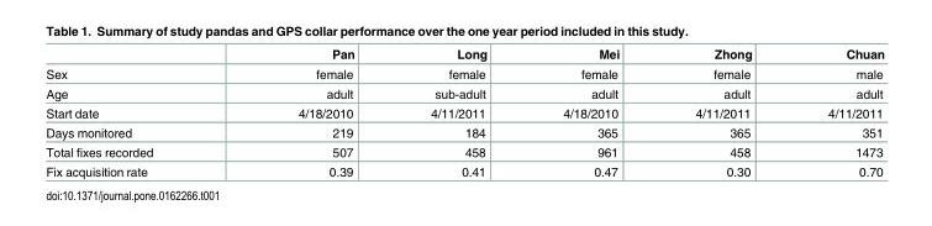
<table><thead><tr><td></td><td>Pan</td><td>Long</td><td>Mei</td><td>Zhong</td><td>Chuan</td></tr></thead><tbody><tr><td>Sex</td><td>female</td><td>female</td><td>female</td><td>female</td><td>male</td></tr><tr><td>Age</td><td>adult</td><td>sub-adult</td><td>adult</td><td>adult</td><td>adult</td></tr><tr><td>Start date</td><td>4/18/2010</td><td>4/11/2011</td><td>4/18/2010</td><td>4/11/2011</td><td>4/11/2011</td></tr><tr><td>Days monitored</td><td>219</td><td>184</td><td>365</td><td>365</td><td>351</td></tr><tr><td>Total fixes recorded</td><td>507</td><td>458</td><td>961</td><td>458</td><td>1473</td></tr><tr><td>Fix acquisition rate</td><td>0.39</td><td>0.41</td><td>0.47</td><td>0.30</td><td>0.70</td></tr></tbody></table>